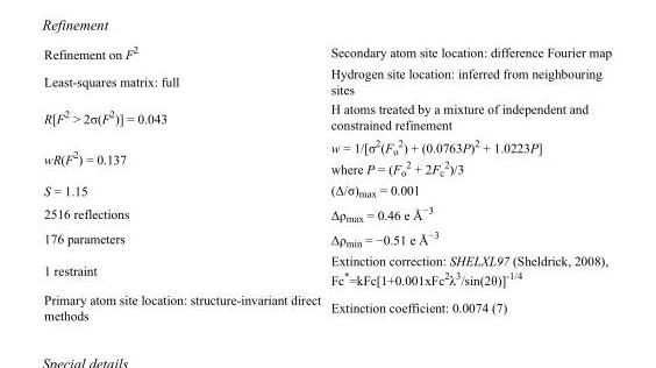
<table><tbody><tr><td>Refinement on F<sup>2</sup></td><td>Secondary atom site location: difference Fourier map</td></tr><tr><td>Least-squares matrix: full</td><td>Hydrogen site location: inferred from neighbouring sites</td></tr><tr><td>R[F<sup>2</sup> &gt; 2σ(F<sup>2</sup>)] = 0.043</td><td>H atoms treated by a mixture of independent and constrained refinement</td></tr><tr><td>wR(F<sup>2</sup>) = 0.137</td><td>w = 1/[σ<sup>2</sup>(F<sub>o</sub> <sup>2</sup>) + (0.0763P)<sup>2</sup> + 1.0223P] where P = (F<sub>o</sub> <sup>2</sup> + 2F<sub>c</sub> <sup>2</sup>)/3</td></tr><tr><td>S = 1.15</td><td>(Δ/σ)<sub>max</sub> = 0.001</td></tr><tr><td>2516 reflections</td><td>Δρ<sub>max</sub> = 0.46 e Å<sup>−3</sup></td></tr><tr><td>176 parameters</td><td>Δρ<sub>min</sub> = −0.51 e Å<sup>−3</sup></td></tr><tr><td>1 restraint</td><td>Extinction correction: SHELXL97 (Sheldrick, 2008), Fc*=kFc[1+0.001xFc<sup>2</sup>λ<sup>3</sup>/sin(2θ)]<sup>-1/4</sup></td></tr><tr><td>Primary atom site location: structure-invariant direct methods</td><td>Extinction coefficient: 0.0074 (7)</td></tr></tbody></table>